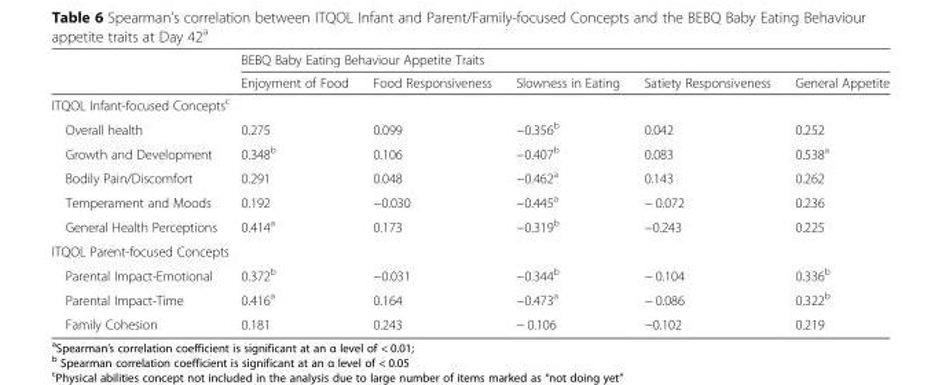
<table><thead><tr><td rowspan="2"></td><td colspan="5">BEBQ Baby Eating Behaviour Appetite Traits</td></tr><tr><td>Enjoyment of Food</td><td>Food Responsiveness</td><td>Slowness in Eating</td><td>Satiety Responsiveness</td><td>General Appetite</td></tr></thead><tbody><tr><td colspan="6">ITQOL Infant-focused Concepts<sup>c</sup></td></tr><tr><td>Overall health</td><td>0.275</td><td>0.099</td><td>−0.356<sup>b</sup></td><td>0.042</td><td>0.252</td></tr><tr><td>Growth and Development</td><td>0.348<sup>b</sup></td><td>0.106</td><td>−0.407<sup>b</sup></td><td>0.083</td><td>0.538<sup>a</sup></td></tr><tr><td>Bodily Pain/Discomfort</td><td>0.291</td><td>0.048</td><td>−0.462<sup>a</sup></td><td>0.143</td><td>0.262</td></tr><tr><td>Temperament and Moods</td><td>0.192</td><td>−0.030</td><td>−0.445<sup>a</sup></td><td>− 0.072</td><td>0.236</td></tr><tr><td>General Health Perceptions</td><td>0.414<sup>a</sup></td><td>0.173</td><td>−0.319<sup>b</sup></td><td>−0.243</td><td>0.225</td></tr><tr><td colspan="6">ITQOL Parent-focused Concepts</td></tr><tr><td>Parental Impact-Emotional</td><td>0.372<sup>b</sup></td><td>−0.031</td><td>−0.344<sup>b</sup></td><td>− 0.104</td><td>0.336<sup>b</sup></td></tr><tr><td>Parental Impact-Time</td><td>0.416<sup>a</sup></td><td>0.164</td><td>−0.473<sup>a</sup></td><td>− 0.086</td><td>0.322<sup>b</sup></td></tr><tr><td>Family Cohesion</td><td>0.181</td><td>0.243</td><td>− 0.106</td><td>−0.102</td><td>0.219</td></tr></tbody></table>